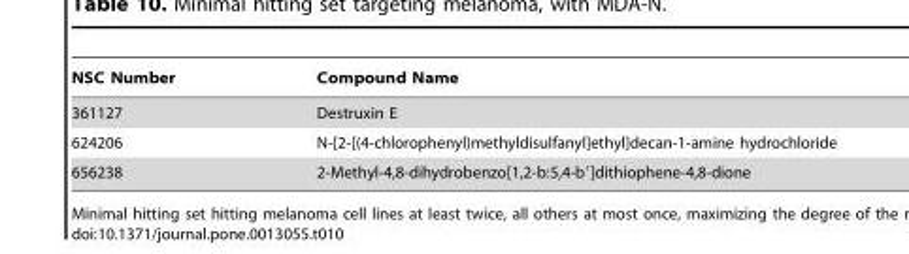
<table><thead><tr><td>NSC Number</td><td>Compound Name</td></tr></thead><tbody><tr><td>361127</td><td>Destruxin E</td></tr><tr><td>624206</td><td>N-[2-[(4-chlorophenyl)methyldisulfanyl]ethyl]decan-1-amine hydrochloride</td></tr><tr><td>656238</td><td>2-Methyl-4,8-dihydrobenzo[1,2-b:5,4-b′]dithiophene-4,8-dione</td></tr></tbody></table>